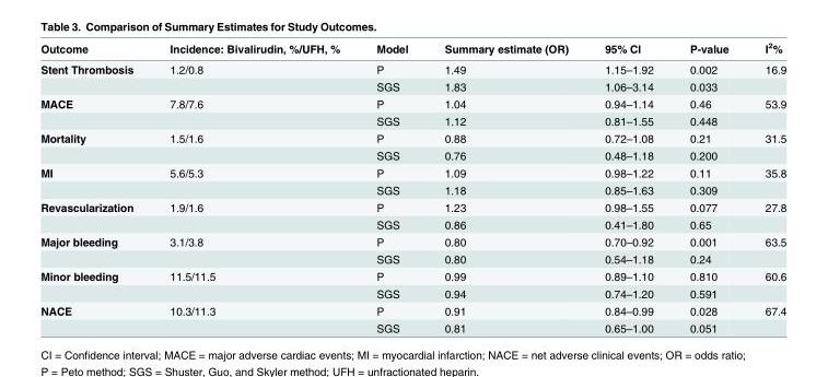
<table><thead><tr><td>Outcome</td><td>Incidence: Bivalirudin, %/UFH, %</td><td>Model</td><td>Summary estimate (OR)</td><td>95% CI</td><td>P-value</td><td>I<sup>2</sup>%</td></tr></thead><tbody><tr><td rowspan="2">Stent Thrombosis</td><td>1.2/0.8</td><td>P</td><td>1.49</td><td>1.15–1.92</td><td>0.002</td><td>16.9</td></tr><tr><td></td><td>SGS</td><td>1.83</td><td>1.06–3.14</td><td>0.033</td><td></td></tr><tr><td rowspan="2">MACE</td><td>7.8/7.6</td><td>P</td><td>1.04</td><td>0.94–1.14</td><td>0.46</td><td>53.9</td></tr><tr><td></td><td>SGS</td><td>1.12</td><td>0.81–1.55</td><td>0.448</td><td></td></tr><tr><td rowspan="2">Mortality</td><td>1.5/1.6</td><td>P</td><td>0.88</td><td>0.72–1.08</td><td>0.21</td><td>31.5</td></tr><tr><td></td><td>SGS</td><td>0.76</td><td>0.48–1.18</td><td>0.200</td><td></td></tr><tr><td rowspan="2">MI</td><td>5.6/5.3</td><td>P</td><td>1.09</td><td>0.98–1.22</td><td>0.11</td><td>35.8</td></tr><tr><td></td><td>SGS</td><td>1.18</td><td>0.85–1.63</td><td>0.309</td><td></td></tr><tr><td rowspan="2">Revascularization</td><td>1.9/1.6</td><td>P</td><td>1.23</td><td>0.98–1.55</td><td>0.077</td><td>27.8</td></tr><tr><td></td><td>SGS</td><td>0.86</td><td>0.41–1.80</td><td>0.65</td><td></td></tr><tr><td rowspan="2">Major bleeding</td><td>3.1/3.8</td><td>P</td><td>0.80</td><td>0.70–0.92</td><td>0.001</td><td>63.5</td></tr><tr><td></td><td>SGS</td><td>0.80</td><td>0.54–1.18</td><td>0.24</td><td></td></tr><tr><td rowspan="2">Minor bleeding</td><td>11.5/11.5</td><td>P</td><td>0.99</td><td>0.89–1.10</td><td>0.810</td><td>60.6</td></tr><tr><td></td><td>SGS</td><td>0.94</td><td>0.74–1.20</td><td>0.591</td><td></td></tr><tr><td rowspan="2">NACE</td><td>10.3/11.3</td><td>P</td><td>0.91</td><td>0.84–0.99</td><td>0.028</td><td>67.4</td></tr><tr><td></td><td>SGS</td><td>0.81</td><td>0.65–1.00</td><td>0.051</td><td></td></tr></tbody></table>